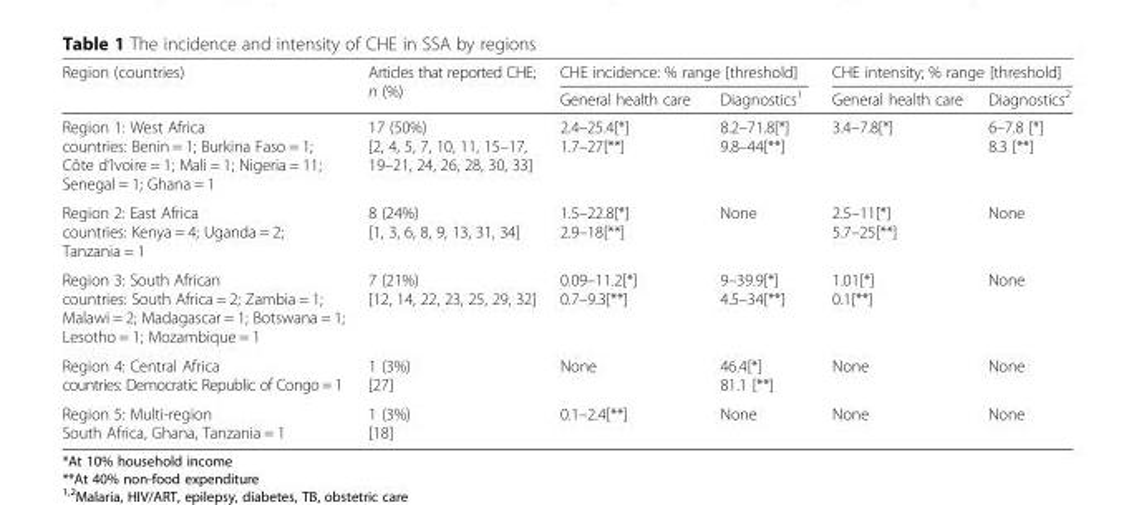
<table><thead><tr><td rowspan="2">Region (countries)</td><td rowspan="2">Articles that reported CHE; n (%)</td><td colspan="2">CHE incidence: % range [threshold]</td><td colspan="2">CHE intensity; % range [threshold]</td></tr><tr><td>General health care</td><td>Diagnostics<sup>1</sup></td><td>General health care</td><td>Diagnostics<sup>2</sup></td></tr></thead><tbody><tr><td>Region 1: West Africa countries: Benin = 1; Burkina Faso = 1; Côte d’Ivoire = 1; Mali = 1; Nigeria = 11; Senegal = 1; Ghana = 1</td><td>17 (50%) [2, 4, 5, 7, 10, 11, 15–17, 19–21, 24, 26, 28, 30, 33]</td><td>2.4–25.4[*] 1.7–27[**]</td><td>8.2–71.8[*] 9.8–44[**]</td><td>3.4–7.8[*]</td><td>6–7.8 [*] 8.3 [**]</td></tr><tr><td>Region 2: East Africa countries: Kenya = 4; Uganda = 2; Tanzania = 1</td><td>8 (24%) [1, 3, 6, 8, 9, 13, 31, 34]</td><td>1.5–22.8[*] 2.9–18[**]</td><td>None</td><td>2.5–11[*] 5.7–25[**]</td><td>None</td></tr><tr><td>Region 3: South African countries: South Africa = 2; Zambia = 1; Malawi = 2; Madagascar = 1; Botswana = 1; Lesotho = 1; Mozambique = 1</td><td>7 (21%) [12, 14, 22, 23, 25, 29, 32]</td><td>0.09–11.2[*] 0.7–9.3[**]</td><td>9–39.9[*] 4.5–34[**]</td><td>1.01[*] 0.1[**]</td><td>None</td></tr><tr><td>Region 4: Central Africa countries: Democratic Republic of Congo = 1</td><td>1 (3%) [27]</td><td>None</td><td>46.4[*] 81.1 [**]</td><td>None</td><td>None</td></tr><tr><td>Region 5: Multi-region South Africa, Ghana, Tanzania = 1</td><td>1 (3%) [18]</td><td>0.1–2.4[**]</td><td>None</td><td>None</td><td>None</td></tr></tbody></table>